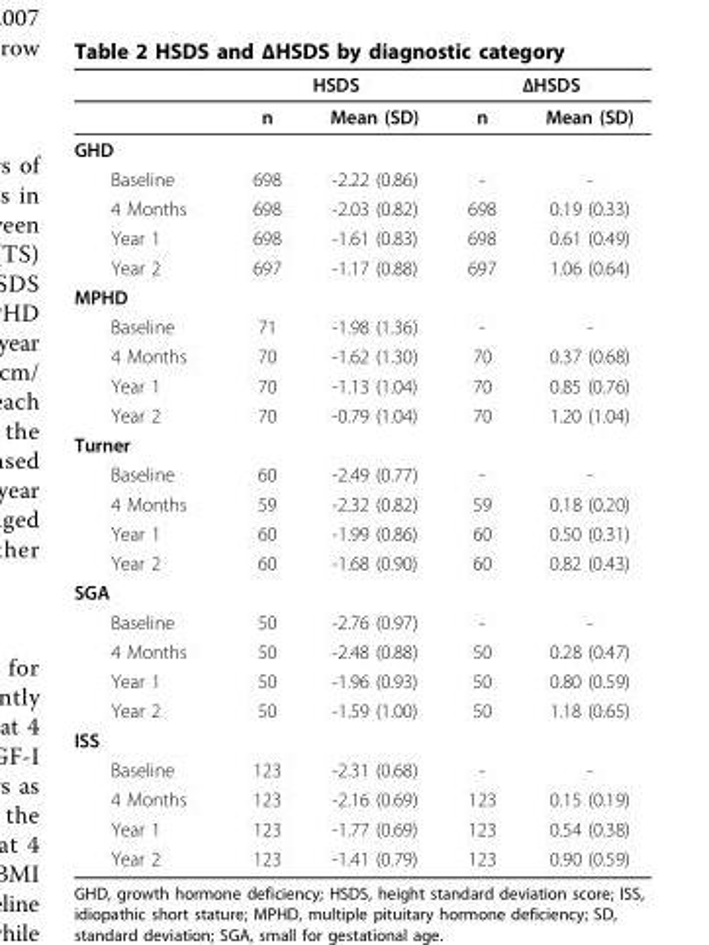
<table><thead><tr><td rowspan="2"></td><td colspan="2">HSDS</td><td colspan="2">ΔHSDS</td></tr><tr><td>n</td><td>Mean (SD)</td><td>n</td><td>Mean (SD)</td></tr></thead><tbody><tr><td colspan="5">GHD</td></tr><tr><td>Baseline</td><td>698</td><td>-2.22 (0.86)</td><td>-</td><td>-</td></tr><tr><td>4 Months</td><td>698</td><td>-2.03 (0.82)</td><td>698</td><td>0.19 (0.33)</td></tr><tr><td>Year 1</td><td>698</td><td>-1.61 (0.83)</td><td>698</td><td>0.61 (0.49)</td></tr><tr><td>Year 2</td><td>697</td><td>-1.17 (0.88)</td><td>697</td><td>1.06 (0.64)</td></tr><tr><td colspan="5">MPHD</td></tr><tr><td>Baseline</td><td>71</td><td>-1.98 (1.36)</td><td>-</td><td>-</td></tr><tr><td>4 Months</td><td>70</td><td>-1.62 (1.30)</td><td>70</td><td>0.37 (0.68)</td></tr><tr><td>Year 1</td><td>70</td><td>-1.13 (1.04)</td><td>70</td><td>0.85 (0.76)</td></tr><tr><td>Year 2</td><td>70</td><td>-0.79 (1.04)</td><td>70</td><td>1.20 (1.04)</td></tr><tr><td colspan="5">Turner</td></tr><tr><td>Baseline</td><td>60</td><td>-2.49 (0.77)</td><td>-</td><td>-</td></tr><tr><td>4 Months</td><td>59</td><td>-2.32 (0.82)</td><td>59</td><td>0.18 (0.20)</td></tr><tr><td>Year 1</td><td>60</td><td>-1.99 (0.86)</td><td>60</td><td>0.50 (0.31)</td></tr><tr><td>Year 2</td><td>60</td><td>-1.68 (0.90)</td><td>60</td><td>0.82 (0.43)</td></tr><tr><td colspan="5">SGA</td></tr><tr><td>Baseline</td><td>50</td><td>-2.76 (0.97)</td><td>-</td><td>-</td></tr><tr><td>4 Months</td><td>50</td><td>-2.48 (0.88)</td><td>50</td><td>0.28 (0.47)</td></tr><tr><td>Year 1</td><td>50</td><td>-1.96 (0.93)</td><td>50</td><td>0.80 (0.59)</td></tr><tr><td>Year 2</td><td>50</td><td>-1.59 (1.00)</td><td>50</td><td>1.18 (0.65)</td></tr><tr><td colspan="5">ISS</td></tr><tr><td>Baseline</td><td>123</td><td>-2.31 (0.68)</td><td>-</td><td>-</td></tr><tr><td>4 Months</td><td>123</td><td>-2.16 (0.69)</td><td>123</td><td>0.15 (0.19)</td></tr><tr><td>Year 1</td><td>123</td><td>-1.77 (0.69)</td><td>123</td><td>0.54 (0.38)</td></tr><tr><td>Year 2</td><td>123</td><td>-1.41 (0.79)</td><td>123</td><td>0.90 (0.59)</td></tr></tbody></table>